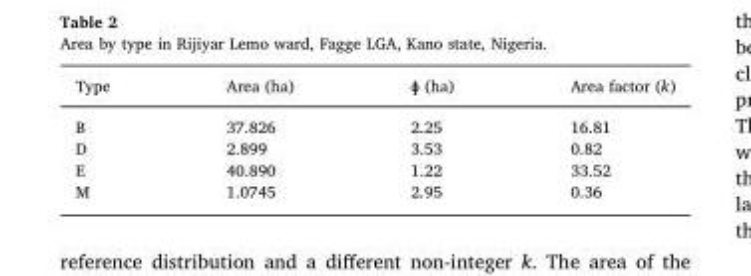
<table><thead><tr><td>Type</td><td>Area (ha)</td><td>ɸ (ha)</td><td>Area factor (k)</td></tr></thead><tbody><tr><td>B</td><td>37.826</td><td>2.25</td><td>16.81</td></tr><tr><td>D</td><td>2.899</td><td>3.53</td><td>0.82</td></tr><tr><td>E</td><td>40.890</td><td>1.22</td><td>33.52</td></tr><tr><td>M</td><td>1.0745</td><td>2.95</td><td>0.36</td></tr></tbody></table>